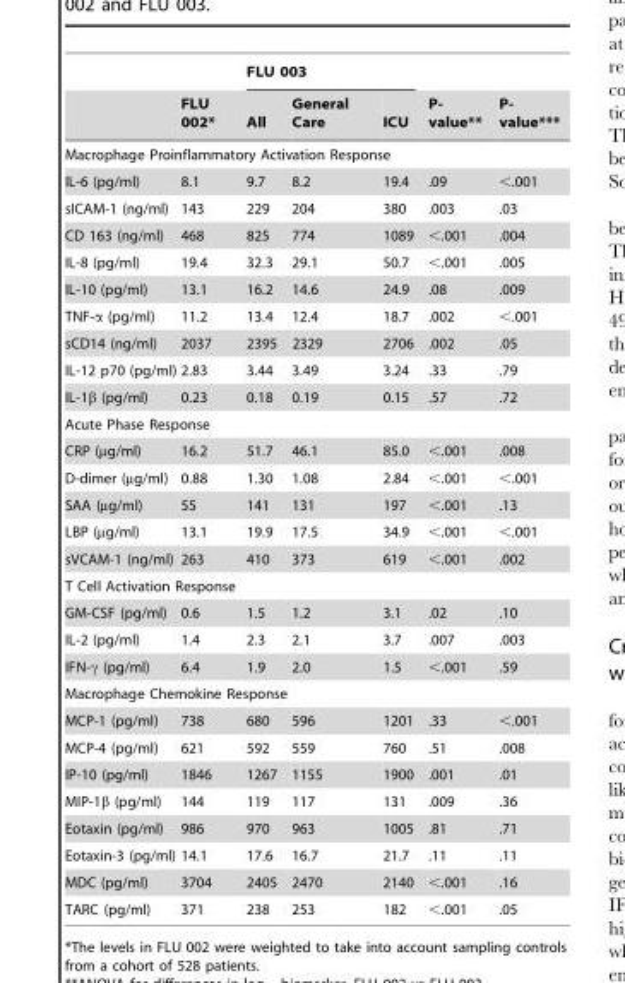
<table><thead><tr><td rowspan="2"></td><td rowspan="2">FLU 002*</td><td colspan="3">FLU 003</td><td rowspan="2">P- value**</td><td rowspan="2">P- value***</td></tr><tr><td>All</td><td>General Care</td><td>ICU</td></tr></thead><tbody><tr><td colspan="7">Macrophage Proinflammatory Activation Response</td></tr><tr><td>IL-6 (pg/ml)</td><td>8.1</td><td>9.7</td><td>8.2</td><td>19.4</td><td>.09</td><td>&lt;.001</td></tr><tr><td>sICAM-1 (ng/ml)</td><td>143</td><td>229</td><td>204</td><td>380</td><td>.003</td><td>.03</td></tr><tr><td>CD 163 (ng/ml)</td><td>468</td><td>825</td><td>774</td><td>1089</td><td>&lt;.001</td><td>.004</td></tr><tr><td>IL-8 (pg/ml)</td><td>19.4</td><td>32.3</td><td>29.1</td><td>50.7</td><td>&lt;.001</td><td>.005</td></tr><tr><td>IL-10 (pg/ml)</td><td>13.1</td><td>16.2</td><td>14.6</td><td>24.9</td><td>.08</td><td>.009</td></tr><tr><td>TNF-α (pg/ml)</td><td>11.2</td><td>13.4</td><td>12.4</td><td>18.7</td><td>.002</td><td>&lt;.001</td></tr><tr><td>sCD14 (ng/ml)</td><td>2037</td><td>2395</td><td>2329</td><td>2706</td><td>.002</td><td>.05</td></tr><tr><td>IL-12 p70 (pg/ml)</td><td>2.83</td><td>3.44</td><td>3.49</td><td>3.24</td><td>.33</td><td>.79</td></tr><tr><td>IL-1β (pg/ml)</td><td>0.23</td><td>0.18</td><td>0.19</td><td>0.15</td><td>.57</td><td>.72</td></tr><tr><td colspan="7">Acute Phase Response</td></tr><tr><td>CRP (µg/ml)</td><td>16.2</td><td>51.7</td><td>46.1</td><td>85.0</td><td>&lt;.001</td><td>.008</td></tr><tr><td>D-dimer (µg/ml)</td><td>0.88</td><td>1.30</td><td>1.08</td><td>2.84</td><td>&lt;.001</td><td>&lt;.001</td></tr><tr><td>SAA (µg/ml)</td><td>55</td><td>141</td><td>131</td><td>197</td><td>&lt;.001</td><td>.13</td></tr><tr><td>LBP (µg/ml)</td><td>13.1</td><td>19.9</td><td>17.5</td><td>34.9</td><td>&lt;.001</td><td>&lt;.001</td></tr><tr><td>sVCAM-1 (ng/ml)</td><td>263</td><td>410</td><td>373</td><td>619</td><td>&lt;.001</td><td>.002</td></tr><tr><td colspan="7">T Cell Activation Response</td></tr><tr><td>GM-CSF (pg/ml)</td><td>0.6</td><td>1.5</td><td>1.2</td><td>3.1</td><td>.02</td><td>.10</td></tr><tr><td>IL-2 (pg/ml)</td><td>1.4</td><td>2.3</td><td>2.1</td><td>3.7</td><td>.007</td><td>.003</td></tr><tr><td>IFN-γ (pg/ml)</td><td>6.4</td><td>1.9</td><td>2.0</td><td>1.5</td><td>&lt;.001</td><td>.59</td></tr><tr><td colspan="7">Macrophage Chemokine Response</td></tr><tr><td>MCP-1 (pg/ml)</td><td>738</td><td>680</td><td>596</td><td>1201</td><td>.33</td><td>&lt;.001</td></tr><tr><td>MCP-4 (pg/ml)</td><td>621</td><td>592</td><td>559</td><td>760</td><td>.51</td><td>.008</td></tr><tr><td>IP-10 (pg/ml)</td><td>1846</td><td>1267</td><td>1155</td><td>1900</td><td>.001</td><td>.01</td></tr><tr><td>MIP-1β (pg/ml)</td><td>144</td><td>119</td><td>117</td><td>131</td><td>.009</td><td>.36</td></tr><tr><td>Eotaxin (pg/ml)</td><td>986</td><td>970</td><td>963</td><td>1005</td><td>.81</td><td>.71</td></tr><tr><td>Eotaxin-3 (pg/ml)</td><td>14.1</td><td>17.6</td><td>16.7</td><td>21.7</td><td>.11</td><td>.11</td></tr><tr><td>MDC (pg/ml)</td><td>3704</td><td>2405</td><td>2470</td><td>2140</td><td>&lt;.001</td><td>.16</td></tr><tr><td>TARC (pg/ml)</td><td>371</td><td>238</td><td>253</td><td>182</td><td>&lt;.001</td><td>.05</td></tr></tbody></table>